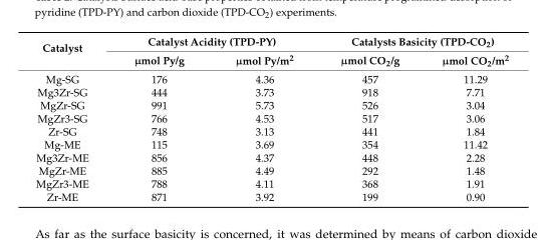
<table><thead><tr><td rowspan="2">Catalyst</td><td colspan="2">Catalyst Acidity (TPD-PY)</td><td colspan="2">Catalysts Basicity (TPD-CO<sub>2</sub>)</td></tr><tr><td>µmol Py/g</td><td>µmol Py/m<sup>2</sup></td><td>µmol CO<sub>2</sub>/g</td><td>µmol CO<sub>2</sub>/m<sup>2</sup></td></tr></thead><tbody><tr><td>Mg-SG</td><td>176</td><td>4.36</td><td>457</td><td>11.29</td></tr><tr><td>Mg3Zr-SG</td><td>444</td><td>3.73</td><td>918</td><td>7.71</td></tr><tr><td>MgZr-SG</td><td>991</td><td>5.73</td><td>526</td><td>3.04</td></tr><tr><td>MgZr3-SG</td><td>766</td><td>4.53</td><td>517</td><td>3.06</td></tr><tr><td>Zr-SG</td><td>748</td><td>3.13</td><td>441</td><td>1.84</td></tr><tr><td>Mg-ME</td><td>115</td><td>3.69</td><td>354</td><td>11.42</td></tr><tr><td>Mg3Zr-ME</td><td>856</td><td>4.37</td><td>448</td><td>2.28</td></tr><tr><td>MgZr-ME</td><td>885</td><td>4.49</td><td>292</td><td>1.48</td></tr><tr><td>MgZr3-ME</td><td>788</td><td>4.11</td><td>368</td><td>1.91</td></tr><tr><td>Zr-ME</td><td>871</td><td>3.92</td><td>199</td><td>0.90</td></tr></tbody></table>